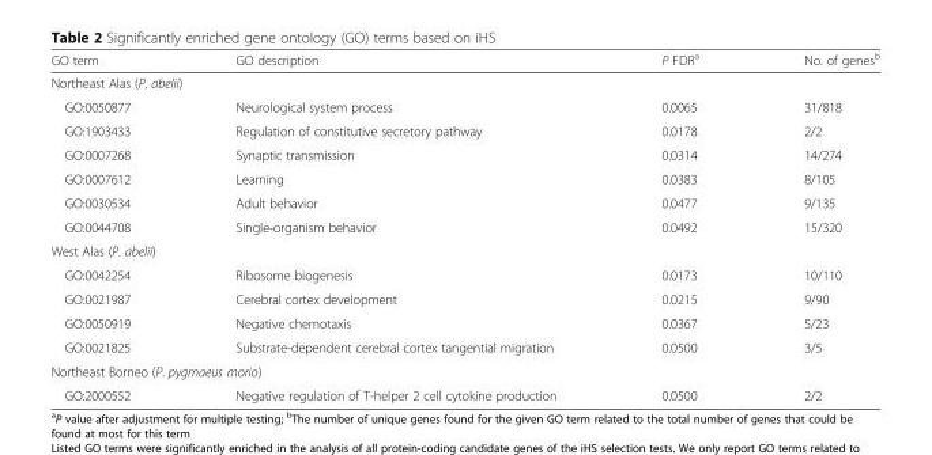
<table><thead><tr><td>GO term</td><td>GO description</td><td>P FDR<sup>a</sup></td><td>No. of genes<sup>b</sup></td></tr></thead><tbody><tr><td colspan="4">Northeast Alas (P. abelii)</td></tr><tr><td>GO:0050877</td><td>Neurological system process</td><td>0.0065</td><td>31/818</td></tr><tr><td>GO:1903433</td><td>Regulation of constitutive secretory pathway</td><td>0.0178</td><td>2/2</td></tr><tr><td>GO:0007268</td><td>Synaptic transmission</td><td>0.0314</td><td>14/274</td></tr><tr><td>GO:0007612</td><td>Learning</td><td>0.0383</td><td>8/105</td></tr><tr><td>GO:0030534</td><td>Adult behavior</td><td>0.0477</td><td>9/135</td></tr><tr><td>GO:0044708</td><td>Single-organism behavior</td><td>0.0492</td><td>15/320</td></tr><tr><td colspan="4">West Alas (P. abelii)</td></tr><tr><td>GO:0042254</td><td>Ribosome biogenesis</td><td>0.0173</td><td>10/110</td></tr><tr><td>GO:0021987</td><td>Cerebral cortex development</td><td>0.0215</td><td>9/90</td></tr><tr><td>GO:0050919</td><td>Negative chemotaxis</td><td>0.0367</td><td>5/23</td></tr><tr><td>GO:0021825</td><td>Substrate-dependent cerebral cortex tangential migration</td><td>0.0500</td><td>3/5</td></tr><tr><td colspan="4">Northeast Borneo (P. pygmaeus morio)</td></tr><tr><td>GO:2000552</td><td>Negative regulation of T-helper 2 cell cytokine production</td><td>0.0500</td><td>2/2</td></tr></tbody></table>